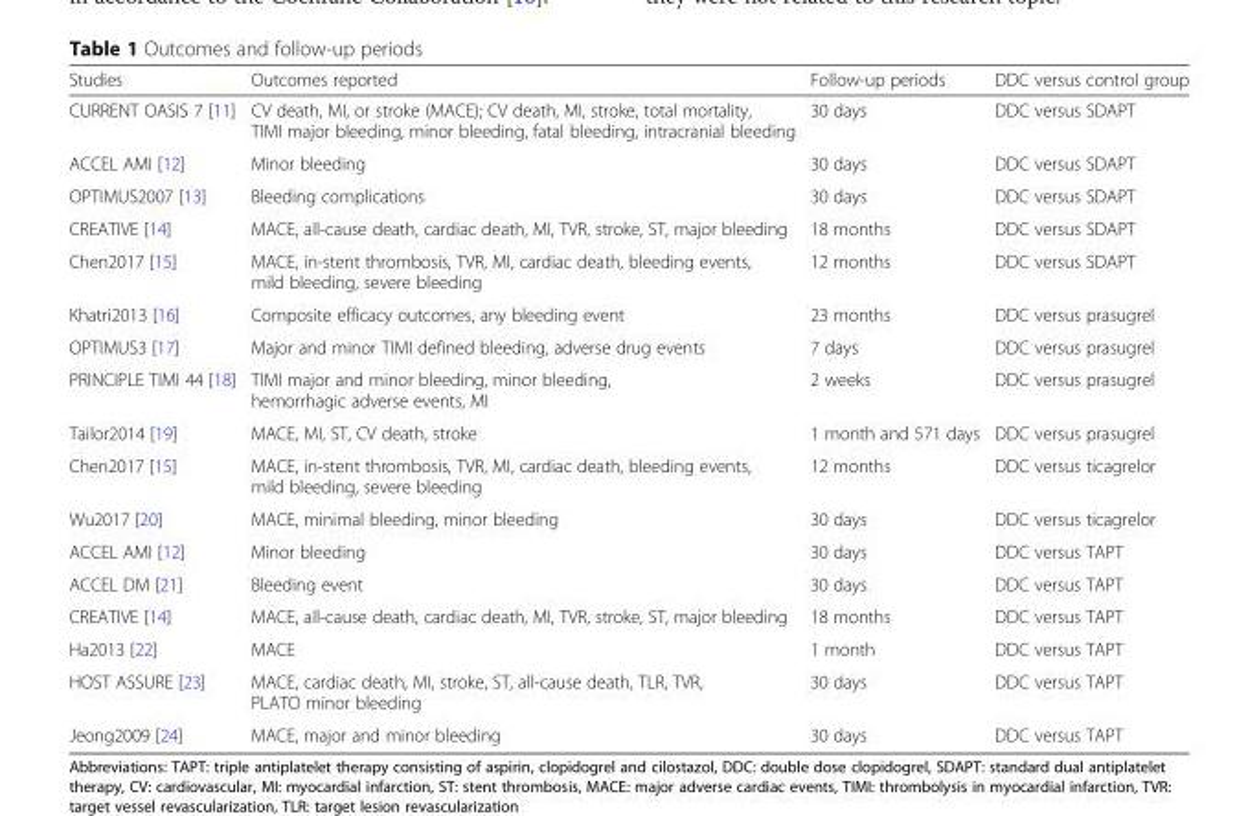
<table><thead><tr><td>Studies</td><td>Outcomes reported</td><td>Follow-up periods</td><td>DDC versus control group</td></tr></thead><tbody><tr><td>CURRENT OASIS 7 [11]</td><td>CV death, MI, or stroke (MACE); CV death, MI, stroke, total mortality, TIMI major bleeding, minor bleeding, fatal bleeding, intracranial bleeding</td><td>30 days</td><td>DDC versus SDAPT</td></tr><tr><td>ACCEL AMI [12]</td><td>Minor bleeding</td><td>30 days</td><td>DDC versus SDAPT</td></tr><tr><td>OPTIMUS2007 [13]</td><td>Bleeding complications</td><td>30 days</td><td>DDC versus SDAPT</td></tr><tr><td>CREATIVE [14]</td><td>MACE, all-cause death, cardiac death, MI, TVR, stroke, ST, major bleeding</td><td>18 months</td><td>DDC versus SDAPT</td></tr><tr><td>Chen2017 [15]</td><td>MACE, in-stent thrombosis, TVR, MI, cardiac death, bleeding events, mild bleeding, severe bleeding</td><td>12 months</td><td>DDC versus SDAPT</td></tr><tr><td>Khatri2013 [16]</td><td>Composite efficacy outcomes, any bleeding event</td><td>23 months</td><td>DDC versus prasugrel</td></tr><tr><td>OPTIMUS3 [17]</td><td>Major and minor TIMI defined bleeding, adverse drug events</td><td>7 days</td><td>DDC versus prasugrel</td></tr><tr><td>PRINCIPLE TIMI 44 [18]</td><td>TIMI major and minor bleeding, minor bleeding, hemorrhagic adverse events, MI</td><td>2 weeks</td><td>DDC versus prasugrel</td></tr><tr><td>Tailor2014 [19]</td><td>MACE, MI, ST, CV death, stroke</td><td>1 month and 571 days</td><td>DDC versus prasugrel</td></tr><tr><td>Chen2017 [15]</td><td>MACE, in-stent thrombosis, TVR, MI, cardiac death, bleeding events, mild bleeding, severe bleeding</td><td>12 months</td><td>DDC versus ticagrelor</td></tr><tr><td>Wu2017 [20]</td><td>MACE, minimal bleeding, minor bleeding</td><td>30 days</td><td>DDC versus ticagrelor</td></tr><tr><td>ACCEL AMI [12]</td><td>Minor bleeding</td><td>30 days</td><td>DDC versus TAPT</td></tr><tr><td>ACCEL DM [21]</td><td>Bleeding event</td><td>30 days</td><td>DDC versus TAPT</td></tr><tr><td>CREATIVE [14]</td><td>MACE, all-cause death, cardiac death, MI, TVR, stroke, ST, major bleeding</td><td>18 months</td><td>DDC versus TAPT</td></tr><tr><td>Ha2013 [22]</td><td>MACE</td><td>1 month</td><td>DDC versus TAPT</td></tr><tr><td>HOST ASSURE [23]</td><td>MACE, cardiac death, MI, stroke, ST, all-cause death, TLR, TVR, PLATO minor bleeding</td><td>30 days</td><td>DDC versus TAPT</td></tr><tr><td>Jeong2009 [24]</td><td>MACE, major and minor bleeding</td><td>30 days</td><td>DDC versus TAPT</td></tr></tbody></table>